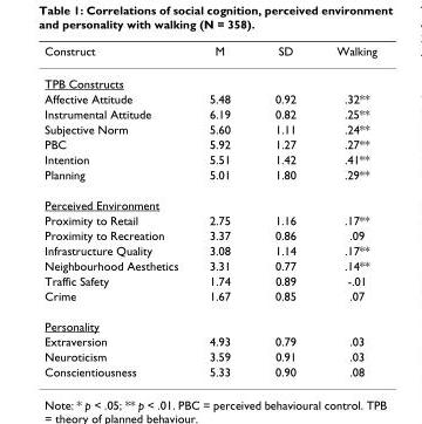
<table><thead><tr><td>Construct</td><td>M</td><td>SD</td><td>Walking</td></tr></thead><tbody><tr><td colspan="4">TPB Constructs</td></tr><tr><td>Affective Attitude</td><td>5.48</td><td>0.92</td><td>.32**</td></tr><tr><td>Instrumental Attitude</td><td>6.19</td><td>0.82</td><td>.25**</td></tr><tr><td>Subjective Norm</td><td>5.60</td><td>1.11</td><td>.24**</td></tr><tr><td>PBC</td><td>5.92</td><td>1.27</td><td>.27**</td></tr><tr><td>Intention</td><td>5.51</td><td>1.42</td><td>.41**</td></tr><tr><td>Planning</td><td>5.01</td><td>1.80</td><td>.29**</td></tr><tr><td colspan="4">Perceived Environment</td></tr><tr><td>Proximity to Retail</td><td>2.75</td><td>1.16</td><td>.17**</td></tr><tr><td>Proximity to Recreation</td><td>3.37</td><td>0.86</td><td>.09</td></tr><tr><td>Infrastructure Quality</td><td>3.08</td><td>1.14</td><td>.17**</td></tr><tr><td>Neighbourhood Aesthetics</td><td>3.31</td><td>0.77</td><td>.14**</td></tr><tr><td>Traffic Safety</td><td>1.74</td><td>0.89</td><td>-.01</td></tr><tr><td>Crime</td><td>1.67</td><td>0.85</td><td>.07</td></tr><tr><td colspan="4">Personality</td></tr><tr><td>Extraversion</td><td>4.93</td><td>0.79</td><td>.03</td></tr><tr><td>Neuroticism</td><td>3.59</td><td>0.91</td><td>.03</td></tr><tr><td>Conscientiousness</td><td>5.33</td><td>0.90</td><td>.08</td></tr></tbody></table>